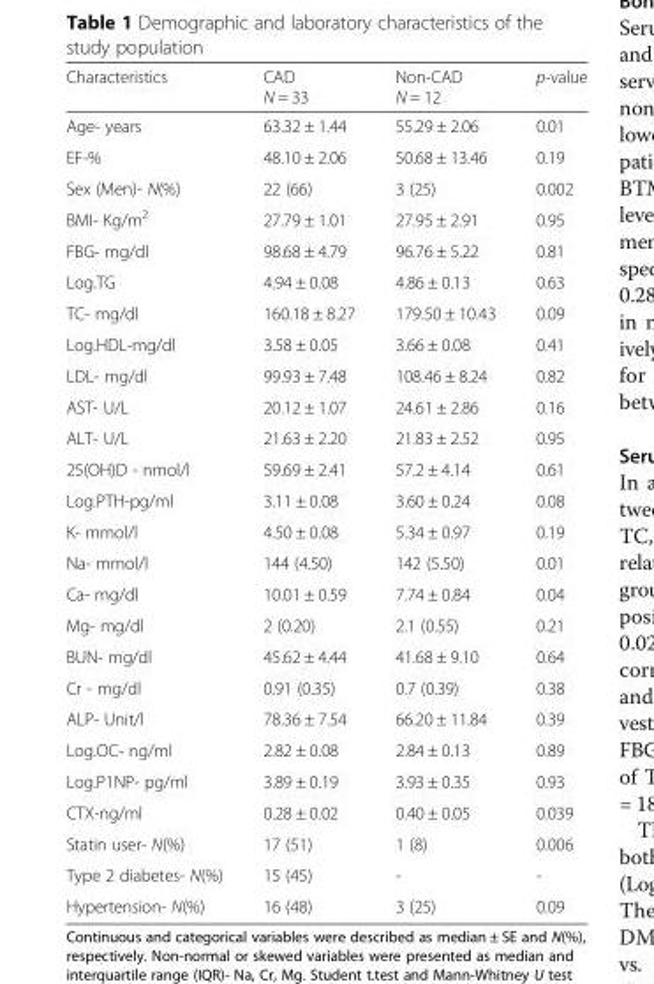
<table><thead><tr><td>Characteristics</td><td>CAD N = 33</td><td>Non-CAD N = 12</td><td>p-value</td></tr></thead><tbody><tr><td>Age- years</td><td>63.32 ± 1.44</td><td>55.29 ± 2.06</td><td>0.01</td></tr><tr><td>EF-%</td><td>48.10 ± 2.06</td><td>50.68 ± 13.46</td><td>0.19</td></tr><tr><td>Sex (Men)- N(%)</td><td>22 (66)</td><td>3 (25)</td><td>0.002</td></tr><tr><td>BMI- Kg/m<sup>2</sup></td><td>27.79 ± 1.01</td><td>27.95 ± 2.91</td><td>0.95</td></tr><tr><td>FBG- mg/dl</td><td>98.68 ± 4.79</td><td>96.76 ± 5.22</td><td>0.81</td></tr><tr><td>Log.TG</td><td>4.94 ± 0.08</td><td>4.86 ± 0.13</td><td>0.63</td></tr><tr><td>TC- mg/dl</td><td>160.18 ± 8.27</td><td>179.50 ± 10.43</td><td>0.09</td></tr><tr><td>Log.HDL-mg/dl</td><td>3.58 ± 0.05</td><td>3.66 ± 0.08</td><td>0.41</td></tr><tr><td>LDL- mg/dl</td><td>99.93 ± 7.48</td><td>108.46 ± 8.24</td><td>0.82</td></tr><tr><td>AST- U/L</td><td>20.12 ± 1.07</td><td>24.61 ± 2.86</td><td>0.16</td></tr><tr><td>ALT- U/L</td><td>21.63 ± 2.20</td><td>21.83 ± 2.52</td><td>0.95</td></tr><tr><td>25(OH)D - nmol/l</td><td>59.69 ± 2.41</td><td>57.2 ± 4.14</td><td>0.61</td></tr><tr><td>Log.PTH-pg/ml</td><td>3.11 ± 0.08</td><td>3.60 ± 0.24</td><td>0.08</td></tr><tr><td>K- mmol/l</td><td>4.50 ± 0.08</td><td>5.34 ± 0.97</td><td>0.19</td></tr><tr><td>Na- mmol/l</td><td>144 (4.50)</td><td>142 (5.50)</td><td>0.01</td></tr><tr><td>Ca- mg/dl</td><td>10.01 ± 0.59</td><td>7.74 ± 0.84</td><td>0.04</td></tr><tr><td>Mg- mg/dl</td><td>2 (0.20)</td><td>2.1 (0.55)</td><td>0.21</td></tr><tr><td>BUN- mg/dl</td><td>45.62 ± 4.44</td><td>41.68 ± 9.10</td><td>0.64</td></tr><tr><td>Cr - mg/dl</td><td>0.91 (0.35)</td><td>0.7 (0.39)</td><td>0.38</td></tr><tr><td>ALP- Unit/l</td><td>78.36 ± 7.54</td><td>66.20 ± 11.84</td><td>0.39</td></tr><tr><td>Log.OC- ng/ml</td><td>2.82 ± 0.08</td><td>2.84 ± 0.13</td><td>0.89</td></tr><tr><td>Log.P1NP- pg/ml</td><td>3.89 ± 0.19</td><td>3.93 ± 0.35</td><td>0.93</td></tr><tr><td>CTX-ng/ml</td><td>0.28 ± 0.02</td><td>0.40 ± 0.05</td><td>0.039</td></tr><tr><td>Statin user- N(%)</td><td>17 (51)</td><td>1 (8)</td><td>0.006</td></tr><tr><td>Type 2 diabetes- N(%)</td><td>15 (45)</td><td>-</td><td>-</td></tr><tr><td>Hypertension- N(%)</td><td>16 (48)</td><td>3 (25)</td><td>0.09</td></tr></tbody></table>